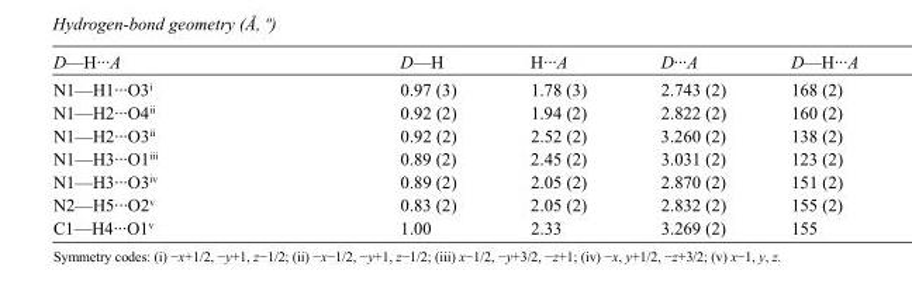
<table><tbody><tr><td>D—H···A</td><td>D—H</td><td>H···A</td><td>D···A</td><td>D—H···A</td></tr><tr><td>N1—H1···O3<sup>i</sup></td><td>0.97 (3)</td><td>1.78 (3)</td><td>2.743 (2)</td><td>168 (2)</td></tr><tr><td>N1—H2···O4<sup>ii</sup></td><td>0.92 (2)</td><td>1.94 (2)</td><td>2.822 (2)</td><td>160 (2)</td></tr><tr><td>N1—H2···O3<sup>ii</sup></td><td>0.92 (2)</td><td>2.52 (2)</td><td>3.260 (2)</td><td>138 (2)</td></tr><tr><td>N1—H3···O1<sup>iii</sup></td><td>0.89 (2)</td><td>2.45 (2)</td><td>3.031 (2)</td><td>123 (2)</td></tr><tr><td>N1—H3···O3<sup>iv</sup></td><td>0.89 (2)</td><td>2.05 (2)</td><td>2.870 (2)</td><td>151 (2)</td></tr><tr><td>N2—H5···O2<sup>v</sup></td><td>0.83 (2)</td><td>2.05 (2)</td><td>2.832 (2)</td><td>155 (2)</td></tr><tr><td>C1—H4···O1<sup>v</sup></td><td>1.00</td><td>2.33</td><td>3.269 (2)</td><td>155</td></tr></tbody></table>